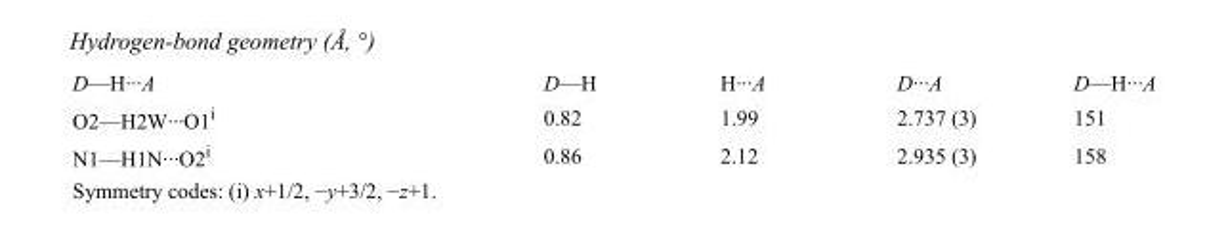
<table><tbody><tr><td>D—H···A</td><td>D—H</td><td>H···A</td><td>D···A</td><td>D—H···A</td></tr><tr><td>O2—H2W···O1<sup>i</sup></td><td>0.82</td><td>1.99</td><td>2.737 (3)</td><td>151</td></tr><tr><td>N1—H1N···O2<sup>i</sup></td><td>0.86</td><td>2.12</td><td>2.935 (3)</td><td>158</td></tr></tbody></table>